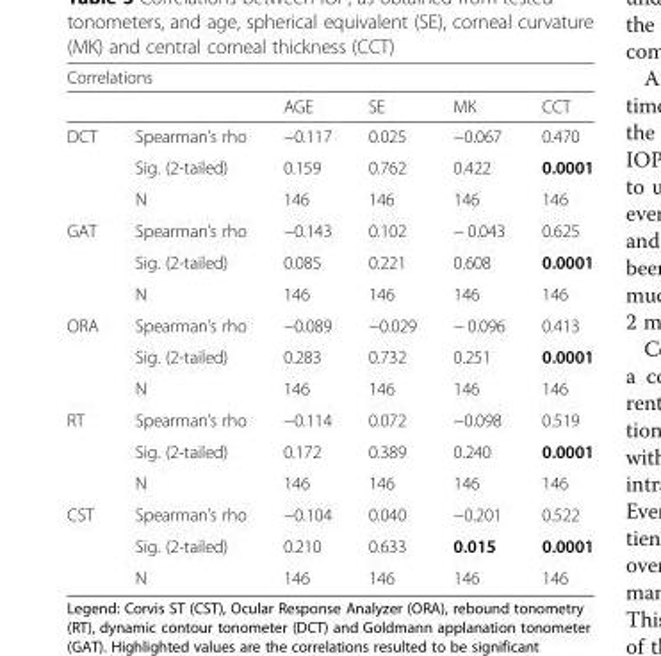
<table><thead><tr><td colspan="6">Correlations</td></tr><tr><td></td><td></td><td>AGE</td><td>SE</td><td>MK</td><td>CCT</td></tr></thead><tbody><tr><td rowspan="3">DCT</td><td>Spearman’s rho</td><td>−0.117</td><td>0.025</td><td>−0.067</td><td>0.470</td></tr><tr><td>Sig. (2-tailed)</td><td>0.159</td><td>0.762</td><td>0.422</td><td>0.0001</td></tr><tr><td>N</td><td>146</td><td>146</td><td>146</td><td>146</td></tr><tr><td rowspan="3">GAT</td><td>Spearman’s rho</td><td>−0.143</td><td>0.102</td><td>− 0.043</td><td>0.625</td></tr><tr><td>Sig. (2-tailed)</td><td>0.085</td><td>0.221</td><td>0.608</td><td>0.0001</td></tr><tr><td>N</td><td>146</td><td>146</td><td>146</td><td>146</td></tr><tr><td rowspan="3">ORA</td><td>Spearman’s rho</td><td>−0.089</td><td>−0.029</td><td>− 0.096</td><td>0.413</td></tr><tr><td>Sig. (2-tailed)</td><td>0.283</td><td>0.732</td><td>0.251</td><td>0.0001</td></tr><tr><td>N</td><td>146</td><td>146</td><td>146</td><td>146</td></tr><tr><td rowspan="3">RT</td><td>Spearman’s rho</td><td>−0.114</td><td>0.072</td><td>−0.098</td><td>0.519</td></tr><tr><td>Sig. (2-tailed)</td><td>0.172</td><td>0.389</td><td>0.240</td><td>0.0001</td></tr><tr><td>N</td><td>146</td><td>146</td><td>146</td><td>146</td></tr><tr><td rowspan="3">CST</td><td>Spearman’s rho</td><td>−0.104</td><td>0.040</td><td>−0.201</td><td>0.522</td></tr><tr><td>Sig. (2-tailed)</td><td>0.210</td><td>0.633</td><td>0.015</td><td>0.0001</td></tr><tr><td>N</td><td>146</td><td>146</td><td>146</td><td>146</td></tr></tbody></table>